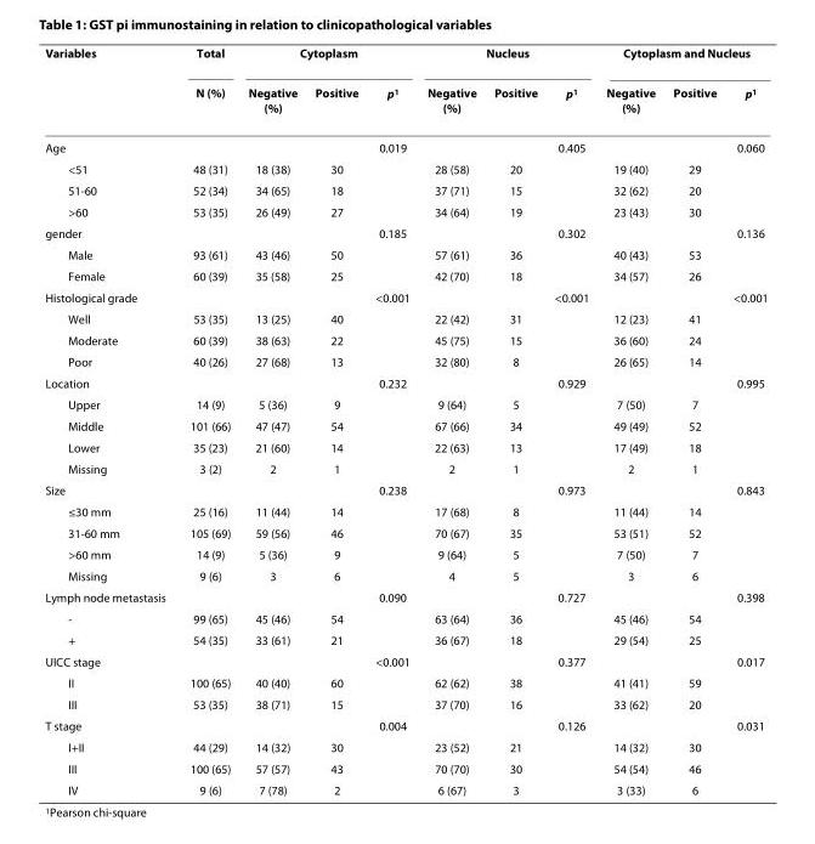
<table><thead><tr><td rowspan="2">Variables</td><td rowspan="2">Total N (%)</td><td colspan="3">Cytoplasm</td><td colspan="3">Nucleus</td><td colspan="3">Cytoplasm and Nucleus</td></tr><tr><td>Negative (%)</td><td>Positive</td><td>p<sup>1</sup></td><td>Negative (%)</td><td>Positive</td><td>p<sup>1</sup></td><td>Negative (%)</td><td>Positive</td><td>p<sup>1</sup></td></tr></thead><tbody><tr><td>Age</td><td></td><td></td><td></td><td>0.019</td><td></td><td></td><td>0.405</td><td></td><td></td><td>0.060</td></tr><tr><td>&lt;51</td><td>48 (31)</td><td>18 (38)</td><td>30</td><td></td><td>28 (58)</td><td>20</td><td></td><td>19 (40)</td><td>29</td><td></td></tr><tr><td>51-60</td><td>52 (34)</td><td>34 (65)</td><td>18</td><td></td><td>37 (71)</td><td>15</td><td></td><td>32 (62)</td><td>20</td><td></td></tr><tr><td>&gt;60</td><td>53 (35)</td><td>26 (49)</td><td>27</td><td></td><td>34 (64)</td><td>19</td><td></td><td>23 (43)</td><td>30</td><td></td></tr><tr><td>gender</td><td></td><td></td><td></td><td>0.185</td><td></td><td></td><td>0.302</td><td></td><td></td><td>0.136</td></tr><tr><td>Male</td><td>93 (61)</td><td>43 (46)</td><td>50</td><td></td><td>57 (61)</td><td>36</td><td></td><td>40 (43)</td><td>53</td><td></td></tr><tr><td>Female</td><td>60 (39)</td><td>35 (58)</td><td>25</td><td></td><td>42 (70)</td><td>18</td><td></td><td>34 (57)</td><td>26</td><td></td></tr><tr><td>Histological grade</td><td></td><td></td><td></td><td>&lt;0.001</td><td></td><td></td><td>&lt;0.001</td><td></td><td></td><td>&lt;0.001</td></tr><tr><td>Well</td><td>53 (35)</td><td>13 (25)</td><td>40</td><td></td><td>22 (42)</td><td>31</td><td></td><td>12 (23)</td><td>41</td><td></td></tr><tr><td>Moderate</td><td>60 (39)</td><td>38 (63)</td><td>22</td><td></td><td>45 (75)</td><td>15</td><td></td><td>36 (60)</td><td>24</td><td></td></tr><tr><td>Poor</td><td>40 (26)</td><td>27 (68)</td><td>13</td><td></td><td>32 (80)</td><td>8</td><td></td><td>26 (65)</td><td>14</td><td></td></tr><tr><td>Location</td><td></td><td></td><td></td><td>0.232</td><td></td><td></td><td>0.929</td><td></td><td></td><td>0.995</td></tr><tr><td>Upper</td><td>14 (9)</td><td>5 (36)</td><td>9</td><td></td><td>9 (64)</td><td>5</td><td></td><td>7 (50)</td><td>7</td><td></td></tr><tr><td>Middle</td><td>101 (66)</td><td>47 (47)</td><td>54</td><td></td><td>67 (66)</td><td>34</td><td></td><td>49 (49)</td><td>52</td><td></td></tr><tr><td>Lower</td><td>35 (23)</td><td>21 (60)</td><td>14</td><td></td><td>22 (63)</td><td>13</td><td></td><td>17 (49)</td><td>18</td><td></td></tr><tr><td>Missing</td><td>3 (2)</td><td>2</td><td>1</td><td></td><td>2</td><td>1</td><td></td><td>2</td><td>1</td><td></td></tr><tr><td>Size</td><td></td><td></td><td></td><td>0.238</td><td></td><td></td><td>0.973</td><td></td><td></td><td>0.843</td></tr><tr><td>≤30 mm</td><td>25 (16)</td><td>11 (44)</td><td>14</td><td></td><td>17 (68)</td><td>8</td><td></td><td>11 (44)</td><td>14</td><td></td></tr><tr><td>31-60 mm</td><td>105 (69)</td><td>59 (56)</td><td>46</td><td></td><td>70 (67)</td><td>35</td><td></td><td>53 (51)</td><td>52</td><td></td></tr><tr><td>&gt;60 mm</td><td>14 (9)</td><td>5 (36)</td><td>9</td><td></td><td>9 (64)</td><td>5</td><td></td><td>7 (50)</td><td>7</td><td></td></tr><tr><td>Missing</td><td>9 (6)</td><td>3</td><td>6</td><td></td><td>4</td><td>5</td><td></td><td>3</td><td>6</td><td></td></tr><tr><td>Lymph node metastasis</td><td></td><td></td><td></td><td>0.090</td><td></td><td></td><td>0.727</td><td></td><td></td><td>0.398</td></tr><tr><td>-</td><td>99 (65)</td><td>45 (46)</td><td>54</td><td></td><td>63 (64)</td><td>36</td><td></td><td>45 (46)</td><td>54</td><td></td></tr><tr><td>+</td><td>54 (35)</td><td>33 (61)</td><td>21</td><td></td><td>36 (67)</td><td>18</td><td></td><td>29 (54)</td><td>25</td><td></td></tr><tr><td>UICC stage</td><td></td><td></td><td></td><td>&lt;0.001</td><td></td><td></td><td>0.377</td><td></td><td></td><td>0.017</td></tr><tr><td>II</td><td>100 (65)</td><td>40 (40)</td><td>60</td><td></td><td>62 (62)</td><td>38</td><td></td><td>41 (41)</td><td>59</td><td></td></tr><tr><td>III</td><td>53 (35)</td><td>38 (71)</td><td>15</td><td></td><td>37 (70)</td><td>16</td><td></td><td>33 (62)</td><td>20</td><td></td></tr><tr><td>T stage</td><td></td><td></td><td></td><td>0.004</td><td></td><td></td><td>0.126</td><td></td><td></td><td>0.031</td></tr><tr><td>I+II</td><td>44 (29)</td><td>14 (32)</td><td>30</td><td></td><td>23 (52)</td><td>21</td><td></td><td>14 (32)</td><td>30</td><td></td></tr><tr><td>III</td><td>100 (65)</td><td>57 (57)</td><td>43</td><td></td><td>70 (70)</td><td>30</td><td></td><td>54 (54)</td><td>46</td><td></td></tr><tr><td>IV</td><td>9 (6)</td><td>7 (78)</td><td>2</td><td></td><td>6 (67)</td><td>3</td><td></td><td>3 (33)</td><td>6</td><td></td></tr></tbody></table>